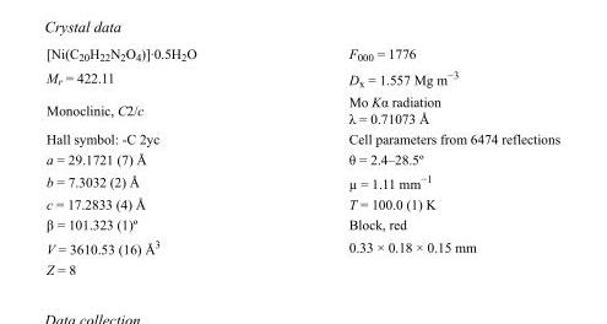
<table><tbody><tr><td>[Ni(C<sub>20</sub>H<sub>22</sub>N<sub>2</sub>O<sub>4</sub>)]·0.5H<sub>2</sub>O</td><td>F<sub>000</sub> = 1776</td></tr><tr><td>M<sub>r</sub> = 422.11</td><td>D<sub>x</sub> = 1.557 Mg m<sup>−3</sup></td></tr><tr><td>Monoclinic, C2/c</td><td>Mo Kα radiation λ = 0.71073 Å</td></tr><tr><td>Hall symbol: -C 2yc</td><td>Cell parameters from 6474 reflections</td></tr><tr><td>a = 29.1721 (7) Å</td><td>θ = 2.4–28.5º</td></tr><tr><td>b = 7.3032 (2) Å</td><td>µ = 1.11 mm<sup>−1</sup></td></tr><tr><td>c = 17.2833 (4) Å</td><td>T = 100.0 (1) K</td></tr><tr><td>β = 101.323 (1)º</td><td>Block, red</td></tr><tr><td>V = 3610.53 (16) Å<sup>3</sup></td><td>0.33 × 0.18 × 0.15 mm</td></tr><tr><td>Z = 8</td><td></td></tr></tbody></table>